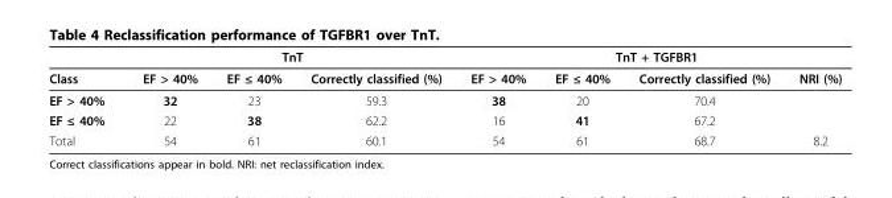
<table><thead><tr><td rowspan="2">Class</td><td colspan="3">TnT</td><td colspan="4">TnT + TGFBR1</td></tr><tr><td>EF &gt; 40%</td><td>EF ≤ 40%</td><td>Correctly classified (%)</td><td>EF &gt; 40%</td><td>EF ≤ 40%</td><td>Correctly classified (%)</td><td>NRI (%)</td></tr></thead><tbody><tr><td>EF &gt; 40%</td><td>32</td><td>23</td><td>59.3</td><td>38</td><td>20</td><td>70.4</td><td></td></tr><tr><td>EF ≤ 40%</td><td>22</td><td>38</td><td>62.2</td><td>16</td><td>41</td><td>67.2</td><td></td></tr><tr><td>Total</td><td>54</td><td>61</td><td>60.1</td><td>54</td><td>61</td><td>68.7</td><td>8.2</td></tr></tbody></table>